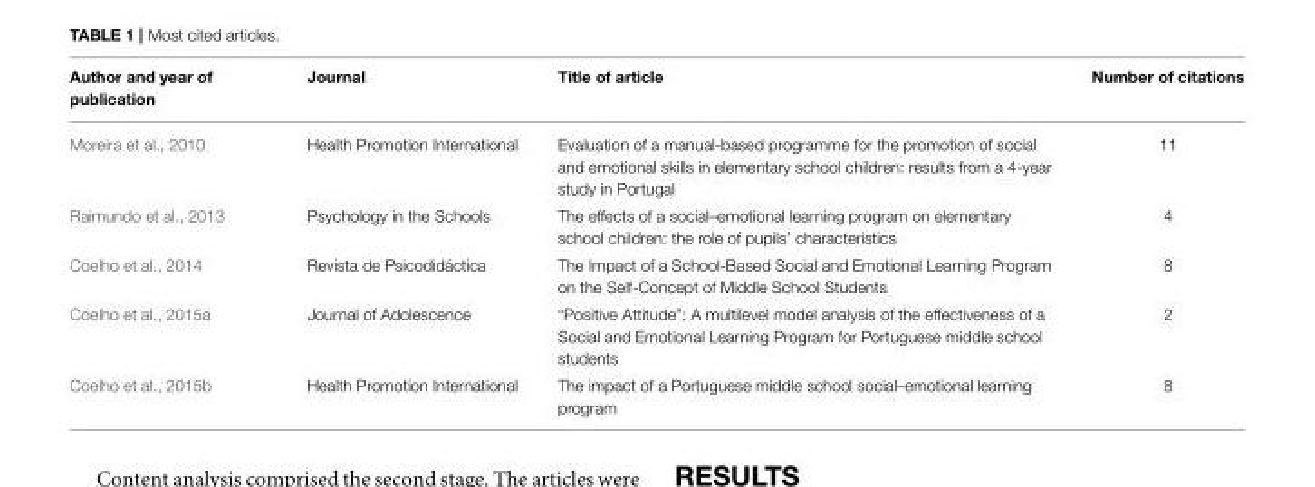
<table><thead><tr><td>Author and year of publication</td><td>Journal</td><td>Title of article</td><td>Number of citations</td></tr></thead><tbody><tr><td>Moreira et al., 2010</td><td>Health Promotion International</td><td>Evaluation of a manual-based programme for the promotion of social and emotional skills in elementary school children: results from a 4-year study in Portugal</td><td>11</td></tr><tr><td>Raimundo et al., 2013</td><td>Psychology in the Schools</td><td>The effects of a social–emotional learning program on elementary school children: the role of pupils’ characteristics</td><td>4</td></tr><tr><td>Coelho et al., 2014</td><td>Revista de Psicodidáctica</td><td>The Impact of a School-Based Social and Emotional Learning Program on the Self-Concept of Middle School Students</td><td>8</td></tr><tr><td>Coelho et al., 2015a</td><td>Journal of Adolescence</td><td>“Positive Attitude”: A multilevel model analysis of the effectiveness of a Social and Emotional Learning Program for Portuguese middle school students</td><td>2</td></tr><tr><td>Coelho et al., 2015b</td><td>Health Promotion International</td><td>The impact of a Portuguese middle school social–emotional learning program</td><td>8</td></tr></tbody></table>